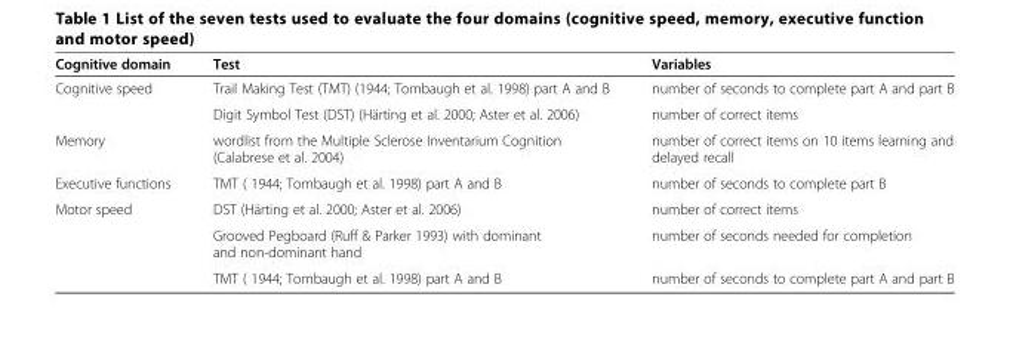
<table><thead><tr><td>Cognitive domain</td><td>Test</td><td>Variables</td></tr></thead><tbody><tr><td rowspan="2">Cognitive speed</td><td>Trail Making Test (TMT) (1944; Tombaugh et al. 1998) part A and B</td><td>number of seconds to complete part A and part B</td></tr><tr><td>Digit Symbol Test (DST) (Härting et al. 2000; Aster et al. 2006)</td><td>number of correct items</td></tr><tr><td>Memory</td><td>wordlist from the Multiple Sclerose Inventarium Cognition (Calabrese et al. 2004)</td><td>number of correct items on 10 items learning and delayed recall</td></tr><tr><td>Executive functions</td><td>TMT ( 1944; Tombaugh et al. 1998) part A and B</td><td>number of seconds to complete part B</td></tr><tr><td rowspan="3">Motor speed</td><td>DST (Härting et al. 2000; Aster et al. 2006)</td><td>number of correct items</td></tr><tr><td>Grooved Pegboard (Ruff &amp; Parker 1993) with dominant and non-dominant hand</td><td>number of seconds needed for completion</td></tr><tr><td>TMT ( 1944; Tombaugh et al. 1998) part A and B</td><td>number of seconds to complete part A and part B</td></tr></tbody></table>